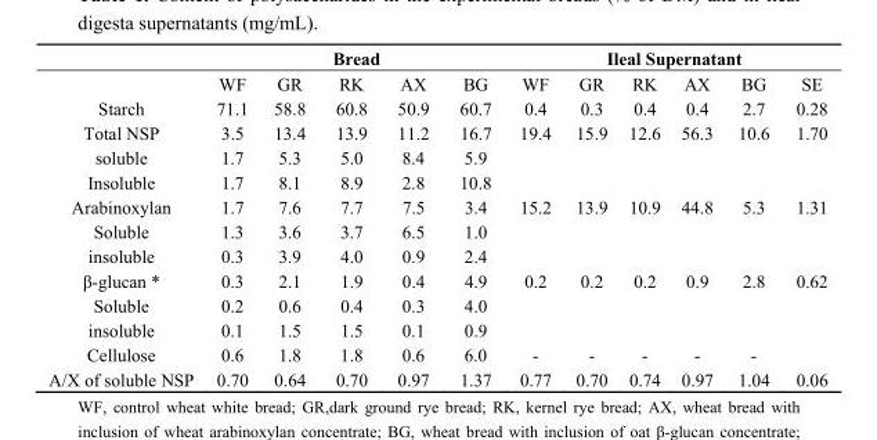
<table><thead><tr><td rowspan="2"></td><td colspan="5">Bread</td><td colspan="6">Ileal Supernatant</td></tr><tr><td>WF</td><td>GR</td><td>RK</td><td>AX</td><td>BG</td><td>WF</td><td>GR</td><td>RK</td><td>AX</td><td>BG</td><td>SE</td></tr></thead><tbody><tr><td>Starch</td><td>71.1</td><td>58.8</td><td>60.8</td><td>50.9</td><td>60.7</td><td>0.4</td><td>0.3</td><td>0.4</td><td>0.4</td><td>2.7</td><td>0.28</td></tr><tr><td>Total NSP</td><td>3.5</td><td>13.4</td><td>13.9</td><td>11.2</td><td>16.7</td><td>19.4</td><td>15.9</td><td>12.6</td><td>56.3</td><td>10.6</td><td>1.70</td></tr><tr><td>soluble</td><td>1.7</td><td>5.3</td><td>5.0</td><td>8.4</td><td>5.9</td><td></td><td></td><td></td><td></td><td></td><td></td></tr><tr><td>Insoluble</td><td>1.7</td><td>8.1</td><td>8.9</td><td>2.8</td><td>10.8</td><td></td><td></td><td></td><td></td><td></td><td></td></tr><tr><td>Arabinoxylan</td><td>1.7</td><td>7.6</td><td>7.7</td><td>7.5</td><td>3.4</td><td>15.2</td><td>13.9</td><td>10.9</td><td>44.8</td><td>5.3</td><td>1.31</td></tr><tr><td>Soluble</td><td>1.3</td><td>3.6</td><td>3.7</td><td>6.5</td><td>1.0</td><td></td><td></td><td></td><td></td><td></td><td></td></tr><tr><td>insoluble</td><td>0.3</td><td>3.9</td><td>4.0</td><td>0.9</td><td>2.4</td><td></td><td></td><td></td><td></td><td></td><td></td></tr><tr><td>β-glucan *</td><td>0.3</td><td>2.1</td><td>1.9</td><td>0.4</td><td>4.9</td><td>0.2</td><td>0.2</td><td>0.2</td><td>0.9</td><td>2.8</td><td>0.62</td></tr><tr><td>Soluble</td><td>0.2</td><td>0.6</td><td>0.4</td><td>0.3</td><td>4.0</td><td></td><td></td><td></td><td></td><td></td><td></td></tr><tr><td>insoluble</td><td>0.1</td><td>1.5</td><td>1.5</td><td>0.1</td><td>0.9</td><td></td><td></td><td></td><td></td><td></td><td></td></tr><tr><td>Cellulose</td><td>0.6</td><td>1.8</td><td>1.8</td><td>0.6</td><td>6.0</td><td>-</td><td>-</td><td>-</td><td>-</td><td>-</td><td></td></tr><tr><td>A/X of soluble NSP</td><td>0.70</td><td>0.64</td><td>0.70</td><td>0.97</td><td>1.37</td><td>0.77</td><td>0.70</td><td>0.74</td><td>0.97</td><td>1.04</td><td>0.06</td></tr></tbody></table>